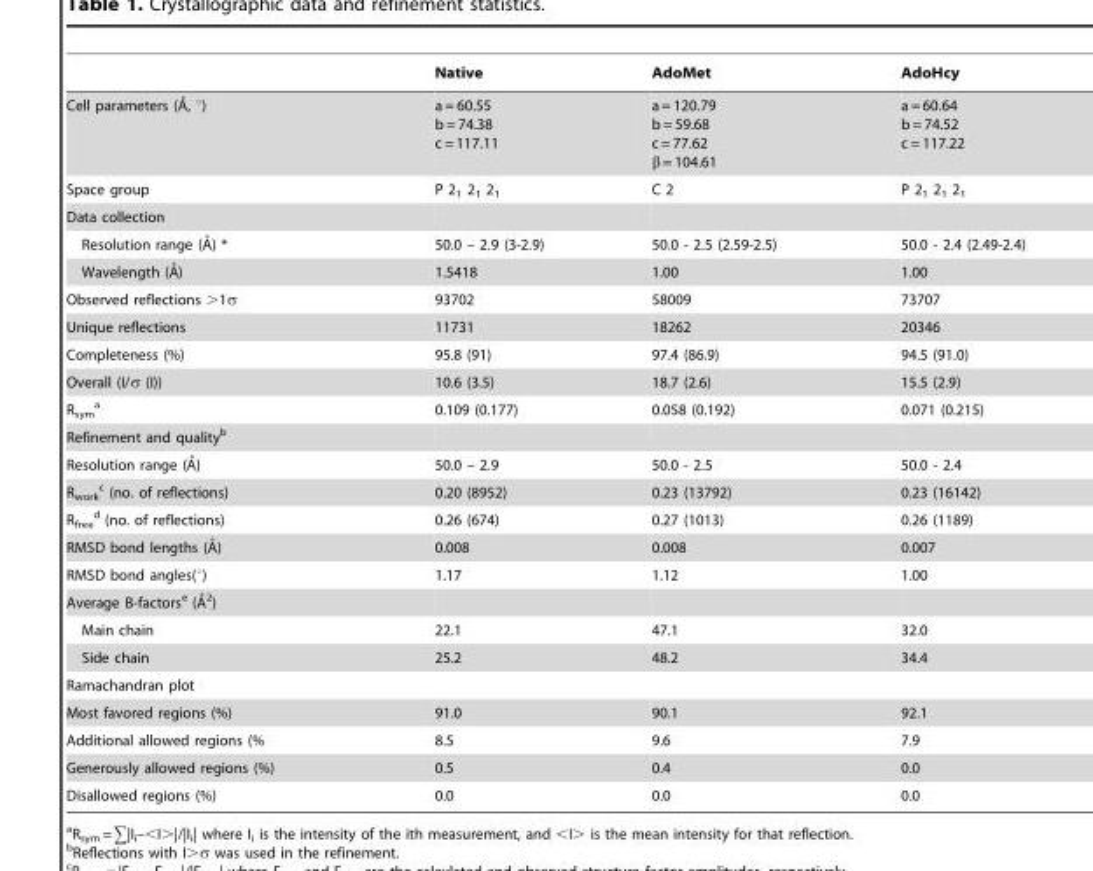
<table><thead><tr><td></td><td>Native</td><td>AdoMet</td><td>AdoHcy</td></tr></thead><tbody><tr><td>Cell parameters (A˚, u)</td><td>a = 60.55 b = 74.38 c = 117.11</td><td>a = 120.79 b = 59.68 c = 77.62 β = 104.61</td><td>a = 60.64 b = 74.52 c = 117.22</td></tr><tr><td>Space group</td><td>P 2<sub>1</sub> 2<sub>1</sub> 2<sub>1</sub></td><td>C 2</td><td>P 2<sub>1</sub> 2<sub>1</sub> 2<sub>1</sub></td></tr><tr><td colspan="4">Data collection</td></tr><tr><td>Resolution range (A˚) *</td><td>50.0 – 2.9 (3-2.9)</td><td>50.0 - 2.5 (2.59-2.5)</td><td>50.0 - 2.4 (2.49-2.4)</td></tr><tr><td>Wavelength (A˚)</td><td>1.5418</td><td>1.00</td><td>1.00</td></tr><tr><td>Observed reflections &gt;1σ</td><td>93702</td><td>58009</td><td>73707</td></tr><tr><td>Unique reflections</td><td>11731</td><td>18262</td><td>20346</td></tr><tr><td>Completeness (%)</td><td>95.8 (91)</td><td>97.4 (86.9)</td><td>94.5 (91.0)</td></tr><tr><td>Overall (I/σ (I))</td><td>10.6 (3.5)</td><td>18.7 (2.6)</td><td>15.5 (2.9)</td></tr><tr><td>R<sub>sym</sub> a</td><td>0.109 (0.177)</td><td>0.058 (0.192)</td><td>0.071 (0.215)</td></tr><tr><td colspan="4">Refinement and quality<sup>b</sup></td></tr><tr><td>Resolution range (A˚)</td><td>50.0 – 2.9</td><td>50.0 - 2.5</td><td>50.0 - 2.4</td></tr><tr><td>R<sub>work</sub> c (no. of reflections)</td><td>0.20 (8952)</td><td>0.23 (13792)</td><td>0.23 (16142)</td></tr><tr><td>R<sub>free</sub> d (no. of reflections)</td><td>0.26 (674)</td><td>0.27 (1013)</td><td>0.26 (1189)</td></tr><tr><td>RMSD bond lengths (A˚)</td><td>0.008</td><td>0.008</td><td>0.007</td></tr><tr><td>RMSD bond angles(°)</td><td>1.17</td><td>1.12</td><td>1.00</td></tr><tr><td colspan="4">Average B-factorse (A˚2)</td></tr><tr><td>Main chain</td><td>22.1</td><td>47.1</td><td>32.0</td></tr><tr><td>Side chain</td><td>25.2</td><td>48.2</td><td>34.4</td></tr><tr><td colspan="4">Ramachandran plot</td></tr><tr><td>Most favored regions (%)</td><td>91.0</td><td>90.1</td><td>92.1</td></tr><tr><td>Additional allowed regions (%</td><td>8.5</td><td>9.6</td><td>7.9</td></tr><tr><td>Generously allowed regions (%)</td><td>0.5</td><td>0.4</td><td>0.0</td></tr><tr><td>Disallowed regions (%)</td><td>0.0</td><td>0.0</td><td>0.0</td></tr></tbody></table>